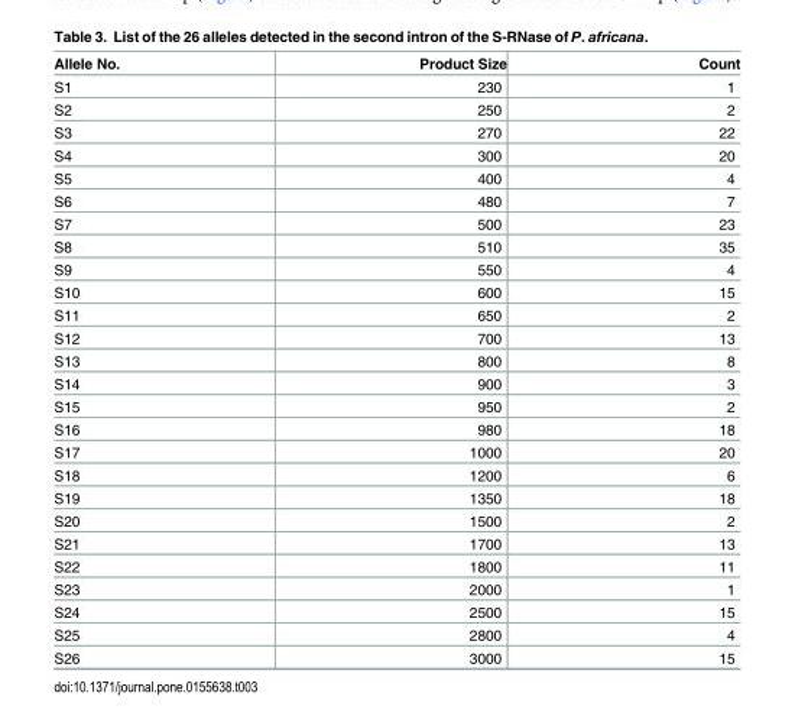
<table><thead><tr><td>Allele No.</td><td>Product Size</td><td>Count</td></tr></thead><tbody><tr><td>S1</td><td>230</td><td>1</td></tr><tr><td>S2</td><td>250</td><td>2</td></tr><tr><td>S3</td><td>270</td><td>22</td></tr><tr><td>S4</td><td>300</td><td>20</td></tr><tr><td>S5</td><td>400</td><td>4</td></tr><tr><td>S6</td><td>480</td><td>7</td></tr><tr><td>S7</td><td>500</td><td>23</td></tr><tr><td>S8</td><td>510</td><td>35</td></tr><tr><td>S9</td><td>550</td><td>4</td></tr><tr><td>S10</td><td>600</td><td>15</td></tr><tr><td>S11</td><td>650</td><td>2</td></tr><tr><td>S12</td><td>700</td><td>13</td></tr><tr><td>S13</td><td>800</td><td>8</td></tr><tr><td>S14</td><td>900</td><td>3</td></tr><tr><td>S15</td><td>950</td><td>2</td></tr><tr><td>S16</td><td>980</td><td>18</td></tr><tr><td>S17</td><td>1000</td><td>20</td></tr><tr><td>S18</td><td>1200</td><td>6</td></tr><tr><td>S19</td><td>1350</td><td>18</td></tr><tr><td>S20</td><td>1500</td><td>2</td></tr><tr><td>S21</td><td>1700</td><td>13</td></tr><tr><td>S22</td><td>1800</td><td>11</td></tr><tr><td>S23</td><td>2000</td><td>1</td></tr><tr><td>S24</td><td>2500</td><td>15</td></tr><tr><td>S25</td><td>2800</td><td>4</td></tr><tr><td>S26</td><td>3000</td><td>15</td></tr></tbody></table>